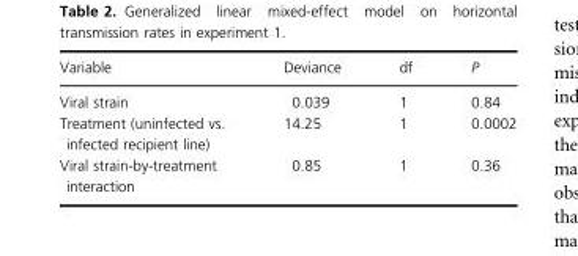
<table><thead><tr><td>Variable</td><td>Deviance</td><td>df</td><td>P</td></tr></thead><tbody><tr><td>Viral strain</td><td>0.039</td><td>1</td><td>0.84</td></tr><tr><td>Treatment (uninfected vs. infected recipient line)</td><td>14.25</td><td>1</td><td>0.0002</td></tr><tr><td>Viral strain-by-treatment interaction</td><td>0.85</td><td>1</td><td>0.36</td></tr></tbody></table>